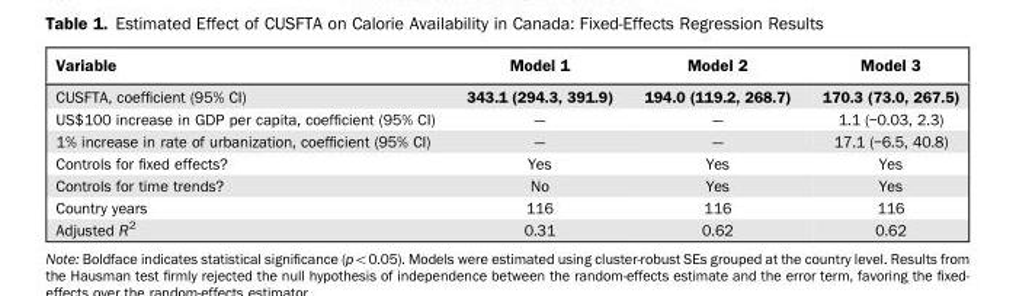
<table><thead><tr><td>Variable</td><td>Model 1</td><td>Model 2</td><td>Model 3</td></tr></thead><tbody><tr><td>CUSFTA, coefficient (95% CI)</td><td>343.1 (294.3, 391.9)</td><td>194.0 (119.2, 268.7)</td><td>170.3 (73.0, 267.5)</td></tr><tr><td>US$100 increase in GDP per capita, coefficient (95% CI)</td><td>—</td><td>—</td><td>1.1 (–0.03, 2.3)</td></tr><tr><td>1% increase in rate of urbanization, coefficient (95% CI)</td><td>—</td><td>—</td><td>17.1 (–6.5, 40.8)</td></tr><tr><td>Controls for fixed effects?</td><td>Yes</td><td>Yes</td><td>Yes</td></tr><tr><td>Controls for time trends?</td><td>No</td><td>Yes</td><td>Yes</td></tr><tr><td>Country years</td><td>116</td><td>116</td><td>116</td></tr><tr><td>Adjusted R<sup>2</sup></td><td>0.31</td><td>0.62</td><td>0.62</td></tr></tbody></table>